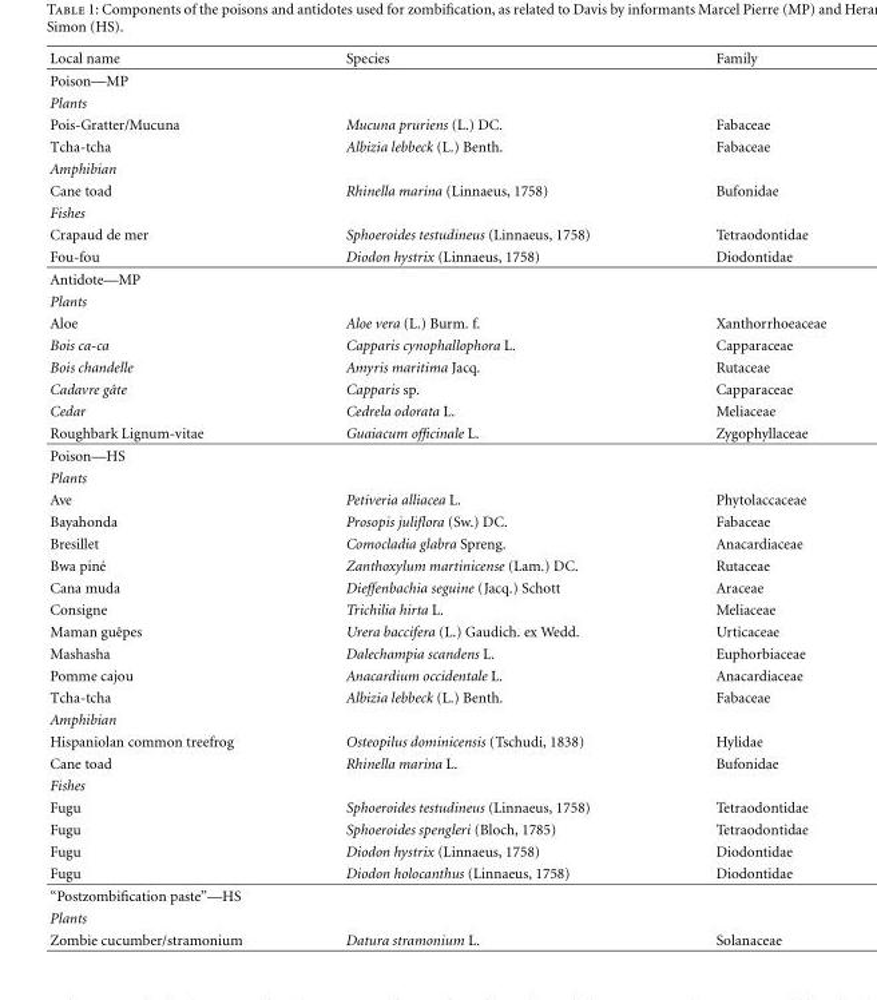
<table><thead><tr><td>Local name</td><td>Species</td><td>Family</td></tr></thead><tbody><tr><td colspan="3">Poison—MP</td></tr><tr><td colspan="3">Plants</td></tr><tr><td>Pois-Gratter/Mucuna</td><td>Mucuna pruriens (L.) DC.</td><td>Fabaceae</td></tr><tr><td>Tcha-tcha</td><td>Albizia lebbeck (L.) Benth.</td><td>Fabaceae</td></tr><tr><td colspan="3">Amphibian</td></tr><tr><td>Cane toad</td><td>Rhinella marina (Linnaeus, 1758)</td><td>Bufonidae</td></tr><tr><td colspan="3">Fishes</td></tr><tr><td>Crapaud de mer</td><td>Sphoeroides testudineus (Linnaeus, 1758)</td><td>Tetraodontidae</td></tr><tr><td>Fou-fou</td><td>Diodon hystrix (Linnaeus, 1758)</td><td>Diodontidae</td></tr><tr><td colspan="3">Antidote—MP</td></tr><tr><td colspan="3">Plants</td></tr><tr><td>Aloe</td><td>Aloe vera (L.) Burm. f.</td><td>Xanthorrhoeaceae</td></tr><tr><td>Bois ca-ca</td><td>Capparis cynophallophora L.</td><td>Capparaceae</td></tr><tr><td>Bois chandelle</td><td>Amyris maritima Jacq.</td><td>Rutaceae</td></tr><tr><td>Cadavre gˆate</td><td>Capparis sp.</td><td>Capparaceae</td></tr><tr><td>Cedar</td><td>Cedrela odorata L.</td><td>Meliaceae</td></tr><tr><td>Roughbark Lignum-vitae</td><td>Guaiacum officinale L.</td><td>Zygophyllaceae</td></tr><tr><td colspan="3">Poison—HS</td></tr><tr><td colspan="3">Plants</td></tr><tr><td>Ave</td><td>Petiveria alliacea L.</td><td>Phytolaccaceae</td></tr><tr><td>Bayahonda</td><td>Prosopis juliflora (Sw.) DC.</td><td>Fabaceae</td></tr><tr><td>Bresillet</td><td>Comocladia glabra Spreng.</td><td>Anacardiaceae</td></tr><tr><td>Bwa pin´e</td><td>Zanthoxylum martinicense (Lam.) DC.</td><td>Rutaceae</td></tr><tr><td>Cana muda</td><td>Dieffenbachia seguine (Jacq.) Schott</td><td>Araceae</td></tr><tr><td>Consigne</td><td>Trichilia hirta L.</td><td>Meliaceae</td></tr><tr><td>Maman guˆepes</td><td>Urera baccifera (L.) Gaudich. ex Wedd.</td><td>Urticaceae</td></tr><tr><td>Mashasha</td><td>Dalechampia scandens L.</td><td>Euphorbiaceae</td></tr><tr><td>Pomme cajou</td><td>Anacardium occidentale L.</td><td>Anacardiaceae</td></tr><tr><td>Tcha-tcha</td><td>Albizia lebbeck (L.) Benth.</td><td>Fabaceae</td></tr><tr><td colspan="3">Amphibian</td></tr><tr><td>Hispaniolan common treefrog</td><td>Osteopilus dominicensis (Tschudi, 1838)</td><td>Hylidae</td></tr><tr><td>Cane toad</td><td>Rhinella marina L.</td><td>Bufonidae</td></tr><tr><td colspan="3">Fishes</td></tr><tr><td>Fugu</td><td>Sphoeroides testudineus (Linnaeus, 1758)</td><td>Tetraodontidae</td></tr><tr><td>Fugu</td><td>Sphoeroides spengleri (Bloch, 1785)</td><td>Tetraodontidae</td></tr><tr><td>Fugu</td><td>Diodon hystrix (Linnaeus, 1758)</td><td>Diodontidae</td></tr><tr><td>Fugu</td><td>Diodon holocanthus (Linnaeus, 1758)</td><td>Diodontidae</td></tr><tr><td colspan="3">“Postzombification paste”—HS</td></tr><tr><td colspan="3">Plants</td></tr><tr><td>Zombie cucumber/stramonium</td><td>Datura stramonium L.</td><td>Solanaceae</td></tr></tbody></table>